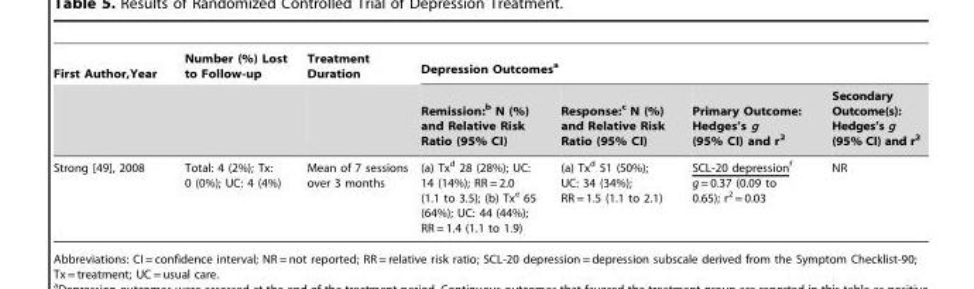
<table><thead><tr><td rowspan="2">First Author,Year</td><td rowspan="2">Number (%) Lost to Follow-up</td><td rowspan="2">Treatment Duration</td><td colspan="4">Depression Outcomes<sup>a</sup></td></tr><tr><td>Remission:<sup>b</sup> N (%) and Relative Risk Ratio (95% CI)</td><td>Response:<sup>c</sup> N (%) and Relative Risk Ratio (95% CI)</td><td>Primary Outcome: Hedges’s g (95% CI) and r<sup>2</sup></td><td>Secondary Outcome(s): Hedges’s g (95% CI) and r<sup>2</sup></td></tr></thead><tbody><tr><td>Strong [49], 2008</td><td>Total: 4 (2%); Tx: 0 (0%); UC: 4 (4%)</td><td>Mean of 7 sessions over 3 months</td><td>(a) Tx<sup>d</sup> 28 (28%); UC: 14 (14%); RR = 2.0 (1.1 to 3.5); (b) Tx<sup>e</sup> 65 (64%); UC: 44 (44%); RR = 1.4 (1.1 to 1.9)</td><td>(a) Tx<sup>d</sup> 51 (50%); UC: 34 (34%); RR = 1.5 (1.1 to 2.1)</td><td>SCL-20 depressionf g = 0.37 (0.09 to 0.65); r<sup>2</sup> = 0.03</td><td>NR</td></tr></tbody></table>